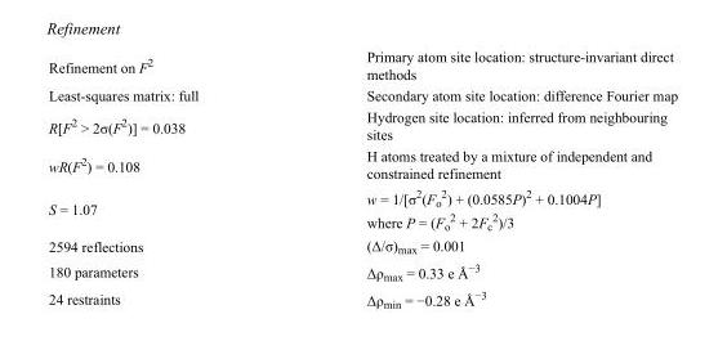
<table><tbody><tr><td>Refinement on F<sup>2</sup></td><td>Primary atom site location: structure-invariant direct methods</td></tr><tr><td>Least-squares matrix: full</td><td>Secondary atom site location: difference Fourier map</td></tr><tr><td>R[F<sup>2</sup> &gt; 2σ(F<sup>2</sup>)] = 0.038</td><td>Hydrogen site location: inferred from neighbouring sites</td></tr><tr><td>wR(F<sup>2</sup>) = 0.108</td><td>H atoms treated by a mixture of independent and constrained refinement</td></tr><tr><td>S = 1.07</td><td>w = 1/[σ<sup>2</sup>(F<sub>o</sub> <sup>2</sup>) + (0.0585P)<sup>2</sup> + 0.1004P] where P = (F<sub>o</sub> <sup>2</sup> + 2F<sub>c</sub> <sup>2</sup>)/3</td></tr><tr><td>2594 reflections</td><td>(Δ/σ)<sub>max</sub> = 0.001</td></tr><tr><td>180 parameters</td><td>Δρ<sub>max</sub> = 0.33 e Å<sup>−3</sup></td></tr><tr><td>24 restraints</td><td>Δρ<sub>min</sub> = −0.28 e Å<sup>−3</sup></td></tr></tbody></table>